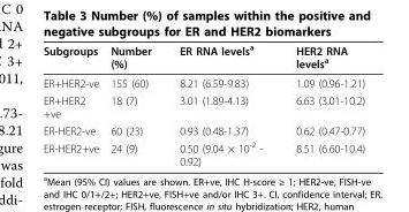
<table><thead><tr><td>Subgroups</td><td>Number (%)</td><td>ER RNA levels<sup>a</sup></td><td>HER2 RNA levels<sup>a</sup></td></tr></thead><tbody><tr><td>ER+HER2-ve</td><td>155 (60)</td><td>8.21 (6.59-9.83)</td><td>1.09 (0.96-1.21)</td></tr><tr><td>ER+HER2 +ve</td><td>18 (7)</td><td>3.01 (1.89-4.13)</td><td>6.63 (3.01-10.2)</td></tr><tr><td>ER-HER2-ve</td><td>60 (23)</td><td>0.93 (0.48-1.37)</td><td>0.62 (0.47-0.77)</td></tr><tr><td>ER-HER2+ve</td><td>24 (9)</td><td>0.50 (9.04 × 10<sup>-2</sup> - 0.92)</td><td>8.51 (6.60-10.4)</td></tr></tbody></table>